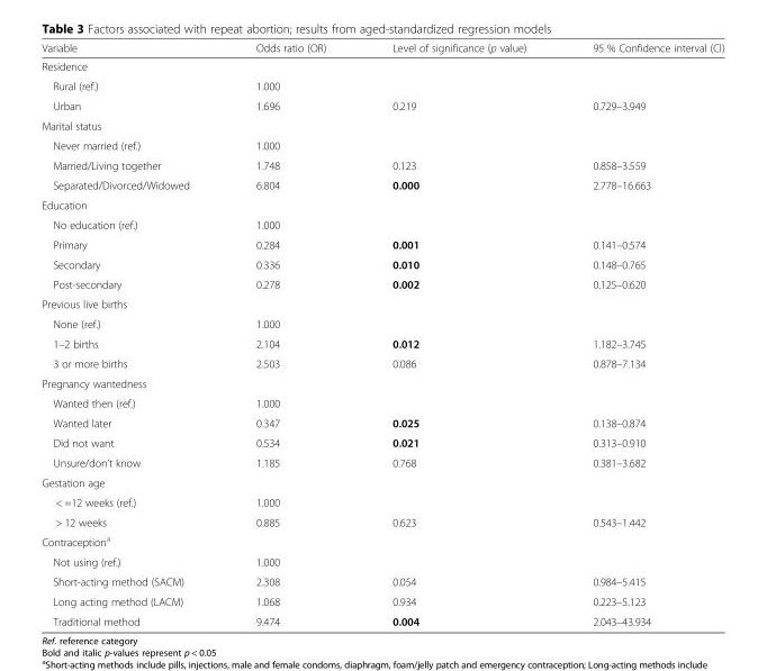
<table><thead><tr><td>Variable</td><td>Odds ratio (OR)</td><td>Level of significance (p value)</td><td>95 % Confidence interval (CI)</td></tr></thead><tbody><tr><td colspan="4">Residence</td></tr><tr><td>Rural (ref.)</td><td>1.000</td><td></td><td></td></tr><tr><td>Urban</td><td>1.696</td><td>0.219</td><td>0.729–3.949</td></tr><tr><td colspan="4">Marital status</td></tr><tr><td>Never married (ref.)</td><td>1.000</td><td></td><td></td></tr><tr><td>Married/Living together</td><td>1.748</td><td>0.123</td><td>0.858–3.559</td></tr><tr><td>Separated/Divorced/Widowed</td><td>6.804</td><td>0.000</td><td>2.778–16.663</td></tr><tr><td colspan="4">Education</td></tr><tr><td>No education (ref.)</td><td>1.000</td><td></td><td></td></tr><tr><td>Primary</td><td>0.284</td><td>0.001</td><td>0.141–0.574</td></tr><tr><td>Secondary</td><td>0.336</td><td>0.010</td><td>0.148–0.765</td></tr><tr><td>Post-secondary</td><td>0.278</td><td>0.002</td><td>0.125–0.620</td></tr><tr><td colspan="4">Previous live births</td></tr><tr><td>None (ref.)</td><td>1.000</td><td></td><td></td></tr><tr><td>1–2 births</td><td>2.104</td><td>0.012</td><td>1.182–3.745</td></tr><tr><td>3 or more births</td><td>2.503</td><td>0.086</td><td>0.878–7.134</td></tr><tr><td colspan="4">Pregnancy wantedness</td></tr><tr><td>Wanted then (ref.)</td><td>1.000</td><td></td><td></td></tr><tr><td>Wanted later</td><td>0.347</td><td>0.025</td><td>0.138–0.874</td></tr><tr><td>Did not want</td><td>0.534</td><td>0.021</td><td>0.313–0.910</td></tr><tr><td>Unsure/don’t know</td><td>1.185</td><td>0.768</td><td>0.381–3.682</td></tr><tr><td colspan="4">Gestation age</td></tr><tr><td>&lt; =12 weeks (ref.)</td><td>1.000</td><td></td><td></td></tr><tr><td>&gt; 12 weeks</td><td>0.885</td><td>0.623</td><td>0.543–1.442</td></tr><tr><td colspan="4">Contraception<sup>a</sup></td></tr><tr><td>Not using (ref.)</td><td>1.000</td><td></td><td></td></tr><tr><td>Short-acting method (SACM)</td><td>2.308</td><td>0.054</td><td>0.984–5.415</td></tr><tr><td>Long acting method (LACM)</td><td>1.068</td><td>0.934</td><td>0.223–5.123</td></tr><tr><td>Traditional method</td><td>9.474</td><td>0.004</td><td>2.043–43.934</td></tr></tbody></table>